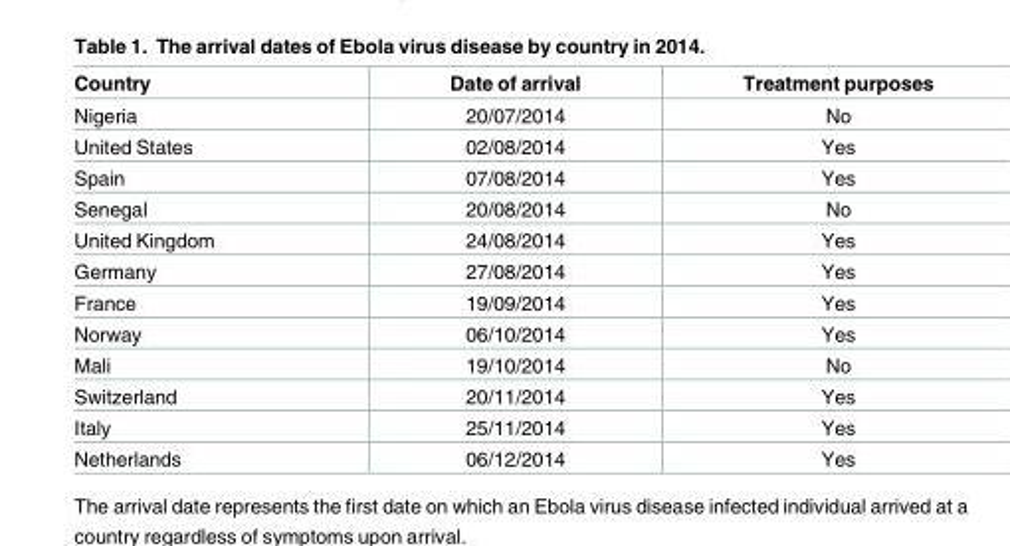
<table><thead><tr><td>Country</td><td>Date of arrival</td><td>Treatment purposes</td></tr></thead><tbody><tr><td>Nigeria</td><td>20/07/2014</td><td>No</td></tr><tr><td>United States</td><td>02/08/2014</td><td>Yes</td></tr><tr><td>Spain</td><td>07/08/2014</td><td>Yes</td></tr><tr><td>Senegal</td><td>20/08/2014</td><td>No</td></tr><tr><td>United Kingdom</td><td>24/08/2014</td><td>Yes</td></tr><tr><td>Germany</td><td>27/08/2014</td><td>Yes</td></tr><tr><td>France</td><td>19/09/2014</td><td>Yes</td></tr><tr><td>Norway</td><td>06/10/2014</td><td>Yes</td></tr><tr><td>Mali</td><td>19/10/2014</td><td>No</td></tr><tr><td>Switzerland</td><td>20/11/2014</td><td>Yes</td></tr><tr><td>Italy</td><td>25/11/2014</td><td>Yes</td></tr><tr><td>Netherlands</td><td>06/12/2014</td><td>Yes</td></tr></tbody></table>